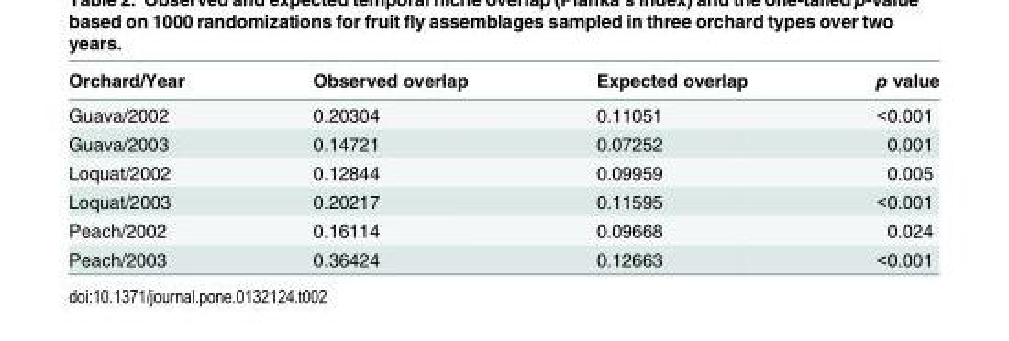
<table><thead><tr><td>Orchard/Year</td><td>Observed overlap</td><td>Expected overlap</td><td>p value</td></tr></thead><tbody><tr><td>Guava/2002</td><td>0.20304</td><td>0.11051</td><td>&lt;0.001</td></tr><tr><td>Guava/2003</td><td>0.14721</td><td>0.07252</td><td>0.001</td></tr><tr><td>Loquat/2002</td><td>0.12844</td><td>0.09959</td><td>0.005</td></tr><tr><td>Loquat/2003</td><td>0.20217</td><td>0.11595</td><td>&lt;0.001</td></tr><tr><td>Peach/2002</td><td>0.16114</td><td>0.09668</td><td>0.024</td></tr><tr><td>Peach/2003</td><td>0.36424</td><td>0.12663</td><td>&lt;0.001</td></tr></tbody></table>